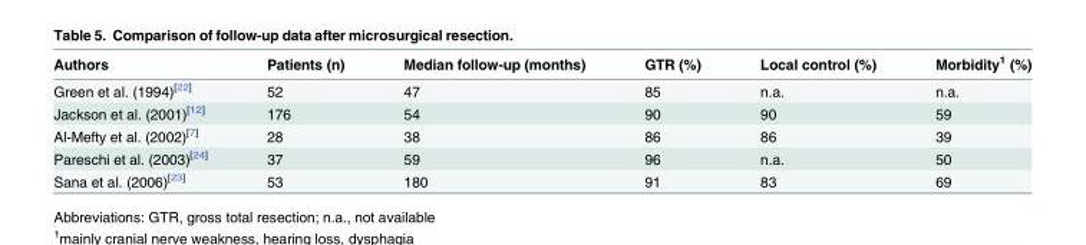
<table><thead><tr><td>Authors</td><td>Patients (n)</td><td>Median follow-up (months)</td><td>GTR (%)</td><td>Local control (%)</td><td>Morbidity<sup>1</sup> (%)</td></tr></thead><tbody><tr><td>Green et al. (1994)<sup>[22]</sup></td><td>52</td><td>47</td><td>85</td><td>n.a.</td><td>n.a.</td></tr><tr><td>Jackson et al. (2001)<sup>[12]</sup></td><td>176</td><td>54</td><td>90</td><td>90</td><td>59</td></tr><tr><td>Al-Mefty et al. (2002)<sup>[7]</sup></td><td>28</td><td>38</td><td>86</td><td>86</td><td>39</td></tr><tr><td>Pareschi et al. (2003)<sup>[24]</sup></td><td>37</td><td>59</td><td>96</td><td>n.a.</td><td>50</td></tr><tr><td>Sana et al. (2006)<sup>[23]</sup></td><td>53</td><td>180</td><td>91</td><td>83</td><td>69</td></tr></tbody></table>